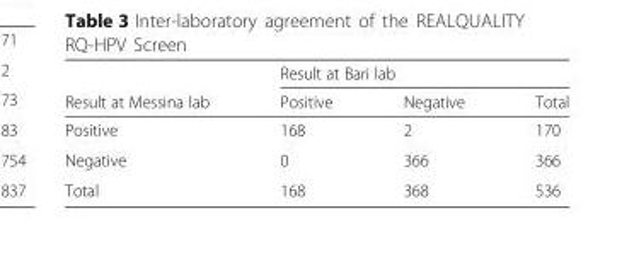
<table><thead><tr><td rowspan="2">Result at Messina lab</td><td colspan="3">Result at Bari lab</td></tr><tr><td>Positive</td><td>Negative</td><td>Total</td></tr></thead><tbody><tr><td>Positive</td><td>168</td><td>2</td><td>170</td></tr><tr><td>Negative</td><td>0</td><td>366</td><td>366</td></tr><tr><td>Total</td><td>168</td><td>368</td><td>536</td></tr></tbody></table>